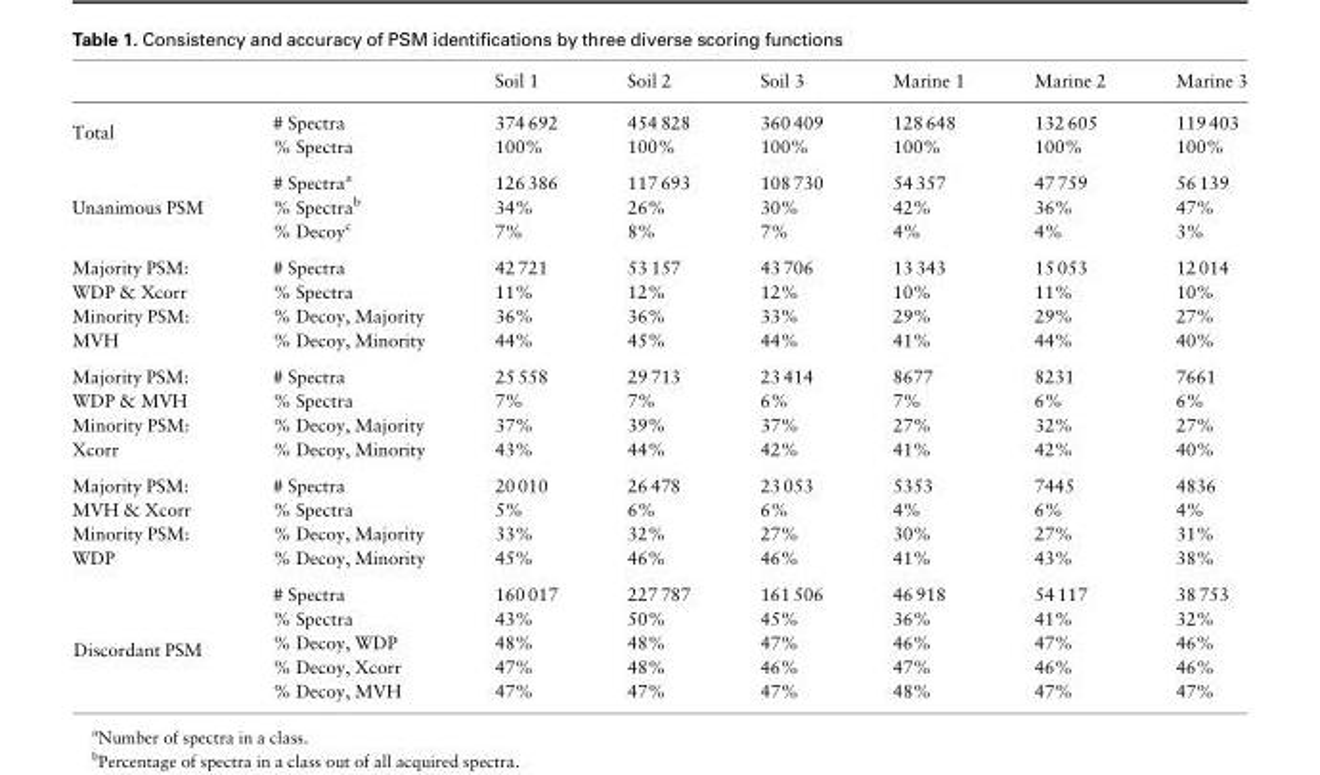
<table><thead><tr><td></td><td></td><td>Soil 1</td><td>Soil 2</td><td>Soil 3</td><td>Marine 1</td><td>Marine 2</td><td>Marine 3</td></tr></thead><tbody><tr><td rowspan="2">Total</td><td># Spectra</td><td>374 692</td><td>454 828</td><td>360 409</td><td>128 648</td><td>132 605</td><td>119 403</td></tr><tr><td>% Spectra</td><td>100%</td><td>100%</td><td>100%</td><td>100%</td><td>100%</td><td>100%</td></tr><tr><td rowspan="3">Unanimous PSM</td><td># Spectra<sup>a</sup></td><td>126 386</td><td>117 693</td><td>108 730</td><td>54 357</td><td>47 759</td><td>56 139</td></tr><tr><td>% Spectra<sup>b</sup></td><td>34%</td><td>26%</td><td>30%</td><td>42%</td><td>36%</td><td>47%</td></tr><tr><td>% Decoy<sup>c</sup></td><td>7%</td><td>8%</td><td>7%</td><td>4%</td><td>4%</td><td>3%</td></tr><tr><td>Majority PSM:</td><td># Spectra</td><td>42 721</td><td>53 157</td><td>43 706</td><td>13 343</td><td>15 053</td><td>12 014</td></tr><tr><td>WDP &amp; Xcorr</td><td>% Spectra</td><td>11%</td><td>12%</td><td>12%</td><td>10%</td><td>11%</td><td>10%</td></tr><tr><td rowspan="2">Minority PSM: MVH</td><td>% Decoy, Majority</td><td>36%</td><td>36%</td><td>33%</td><td>29%</td><td>29%</td><td>27%</td></tr><tr><td>% Decoy, Minority</td><td>44%</td><td>45%</td><td>44%</td><td>41%</td><td>44%</td><td>40%</td></tr><tr><td>Majority PSM:</td><td># Spectra</td><td>25 558</td><td>29 713</td><td>23 414</td><td>8677</td><td>8231</td><td>7661</td></tr><tr><td>WDP &amp; MVH</td><td>% Spectra</td><td>7%</td><td>7%</td><td>6%</td><td>7%</td><td>6%</td><td>6%</td></tr><tr><td rowspan="2">Minority PSM: Xcorr</td><td>% Decoy, Majority</td><td>37%</td><td>39%</td><td>37%</td><td>27%</td><td>32%</td><td>27%</td></tr><tr><td>% Decoy, Minority</td><td>43%</td><td>44%</td><td>42%</td><td>41%</td><td>42%</td><td>40%</td></tr><tr><td>Majority PSM:</td><td># Spectra</td><td>20 010</td><td>26 478</td><td>23 053</td><td>5353</td><td>7445</td><td>4836</td></tr><tr><td>MVH &amp; Xcorr</td><td>% Spectra</td><td>5%</td><td>6%</td><td>6%</td><td>4%</td><td>6%</td><td>4%</td></tr><tr><td rowspan="2">Minority PSM: WDP</td><td>% Decoy, Majority</td><td>33%</td><td>32%</td><td>27%</td><td>30%</td><td>27%</td><td>31%</td></tr><tr><td>% Decoy, Minority</td><td>45%</td><td>46%</td><td>46%</td><td>41%</td><td>43%</td><td>38%</td></tr><tr><td rowspan="5">Discordant PSM</td><td># Spectra</td><td>160 017</td><td>227 787</td><td>161 506</td><td>46 918</td><td>54 117</td><td>38 753</td></tr><tr><td>% Spectra</td><td>43%</td><td>50%</td><td>45%</td><td>36%</td><td>41%</td><td>32%</td></tr><tr><td>% Decoy, WDP</td><td>48%</td><td>48%</td><td>47%</td><td>46%</td><td>47%</td><td>46%</td></tr><tr><td>% Decoy, Xcorr</td><td>47%</td><td>48%</td><td>46%</td><td>47%</td><td>46%</td><td>46%</td></tr><tr><td>% Decoy, MVH</td><td>47%</td><td>47%</td><td>47%</td><td>48%</td><td>47%</td><td>47%</td></tr></tbody></table>